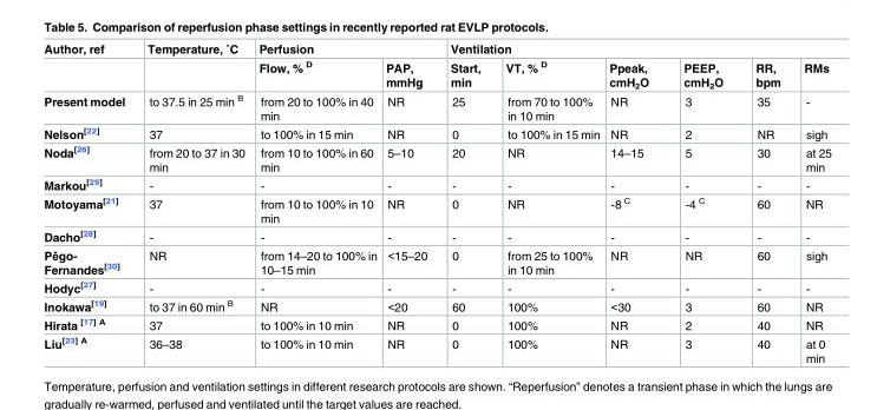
<table><thead><tr><td rowspan="2">Author, ref</td><td rowspan="2">Temperature, ˚C</td><td colspan="2">Perfusion</td><td colspan="6">Ventilation</td></tr><tr><td>Flow, % <sup>D</sup></td><td>PAP, mmHg</td><td>Start, min</td><td>VT, % <sup>D</sup></td><td>Ppeak, cmH<sub>2</sub>O</td><td>PEEP, cmH<sub>2</sub>O</td><td>RR, bpm</td><td>RMs</td></tr></thead><tbody><tr><td>Present model</td><td>to 37.5 in 25 min <sup>B</sup></td><td>from 20 to 100% in 40 min</td><td>NR</td><td>25</td><td>from 70 to 100% in 10 min</td><td>NR</td><td>3</td><td>35</td><td>-</td></tr><tr><td>Nelson<sup>[22]</sup></td><td>37</td><td>to 100% in 15 min</td><td>NR</td><td>0</td><td>to 100% in 15 min</td><td>NR</td><td>2</td><td>NR</td><td>sigh</td></tr><tr><td>Noda<sup>[26]</sup></td><td>from 20 to 37 in 30 min</td><td>from 10 to 100% in 60 min</td><td>5–10</td><td>20</td><td>NR</td><td>14–15</td><td>5</td><td>30</td><td>at 25 min</td></tr><tr><td>Markou<sup>[29]</sup></td><td>-</td><td>-</td><td>-</td><td>-</td><td>-</td><td>-</td><td>-</td><td>-</td><td>-</td></tr><tr><td>Motoyama<sup>[21]</sup></td><td>37</td><td>from 10 to 100% in 10 min</td><td>NR</td><td>0</td><td>NR</td><td>-8 <sup>C</sup></td><td>-4 <sup>C</sup></td><td>60</td><td>NR</td></tr><tr><td>Dacho<sup>[28]</sup></td><td>-</td><td>-</td><td>-</td><td>-</td><td>-</td><td>-</td><td>-</td><td>-</td><td>-</td></tr><tr><td>Pêgo- Fernandes<sup>[30]</sup></td><td>NR</td><td>from 14–20 to 100% in 10–15 min</td><td>&lt;15–20</td><td>0</td><td>from 25 to 100% in 10 min</td><td>NR</td><td>NR</td><td>60</td><td>sigh</td></tr><tr><td>Hodyc<sup>[27]</sup></td><td>-</td><td>-</td><td>-</td><td>-</td><td>-</td><td>-</td><td>-</td><td>-</td><td>-</td></tr><tr><td>Inokawa<sup>[19]</sup></td><td>to 37 in 60 min <sup>B</sup></td><td>NR</td><td>&lt;20</td><td>60</td><td>100%</td><td>&lt;30</td><td>3</td><td>60</td><td>NR</td></tr><tr><td>Hirata <sup>[17] A</sup></td><td>37</td><td>to 100% in 10 min</td><td>NR</td><td>0</td><td>100%</td><td>NR</td><td>2</td><td>40</td><td>NR</td></tr><tr><td>Liu<sup>[23] A</sup></td><td>36–38</td><td>to 100% in 10 min</td><td>NR</td><td>0</td><td>100%</td><td>NR</td><td>3</td><td>40</td><td>at 0 min</td></tr></tbody></table>